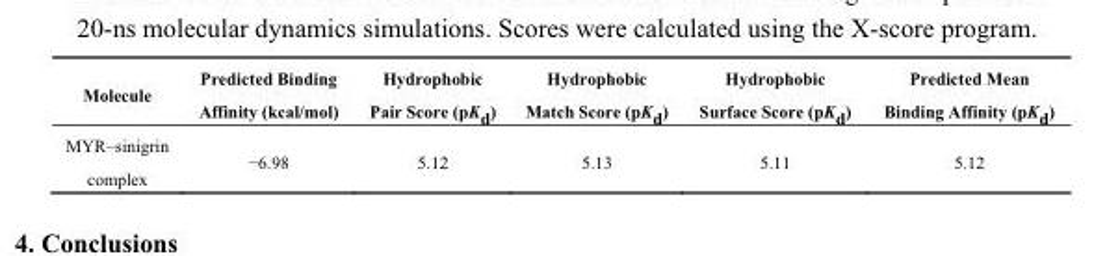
<table><thead><tr><td>Molecule</td><td>Predicted Binding Affinity (kcal/mol)</td><td>Hydrophobic Pair Score (pKd)</td><td>Hydrophobic Match Score (pKd)</td><td>Hydrophobic Surface Score (pKd)</td><td>Predicted Mean Binding Affinity (pKd)</td></tr></thead><tbody><tr><td>MYR–sinigrin complex</td><td>−6.98</td><td>5.12</td><td>5.13</td><td>5.11</td><td>5.12</td></tr></tbody></table>